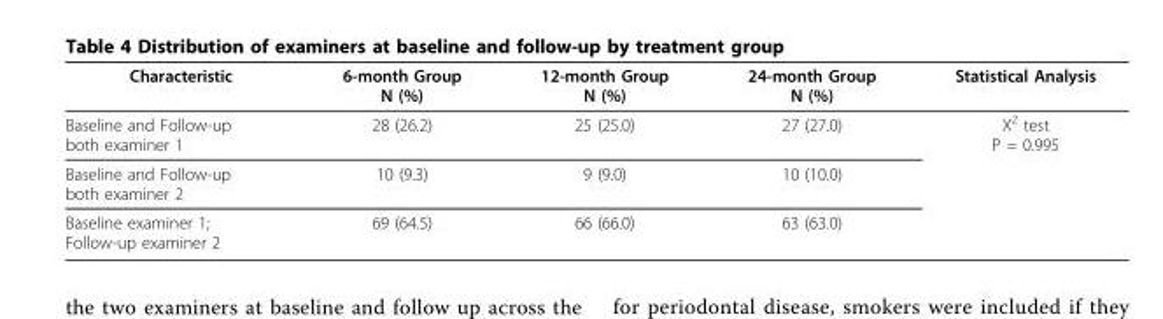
<table><thead><tr><td>Characteristic</td><td>6-month Group N (%)</td><td>12-month Group N (%)</td><td>24-month Group N (%)</td><td>Statistical Analysis</td></tr></thead><tbody><tr><td>Baseline and Follow-up both examiner 1</td><td>28 (26.2)</td><td>25 (25.0)</td><td>27 (27.0)</td><td>Χ<sup>2</sup> test P = 0.995</td></tr><tr><td>Baseline and Follow-up both examiner 2</td><td>10 (9.3)</td><td>9 (9.0)</td><td>10 (10.0)</td><td></td></tr><tr><td>Baseline examiner 1; Follow-up examiner 2</td><td>69 (64.5)</td><td>66 (66.0)</td><td>63 (63.0)</td><td></td></tr></tbody></table>